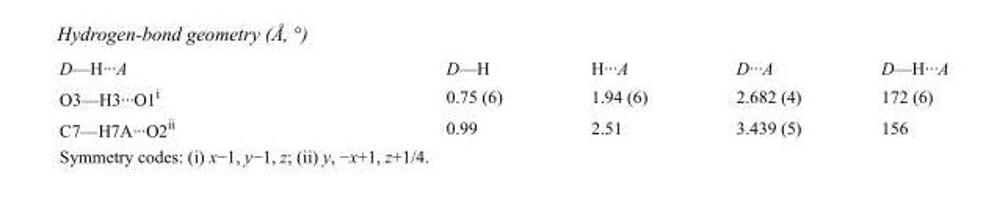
<table><tbody><tr><td>D—H···A</td><td>D—H</td><td>H···A</td><td>D···A</td><td>D—H···A</td></tr><tr><td>O3—H3···O1<sup>i</sup></td><td>0.75 (6)</td><td>1.94 (6)</td><td>2.682 (4)</td><td>172 (6)</td></tr><tr><td>C7—H7A···O2<sup>ii</sup></td><td>0.99</td><td>2.51</td><td>3.439 (5)</td><td>156</td></tr></tbody></table>